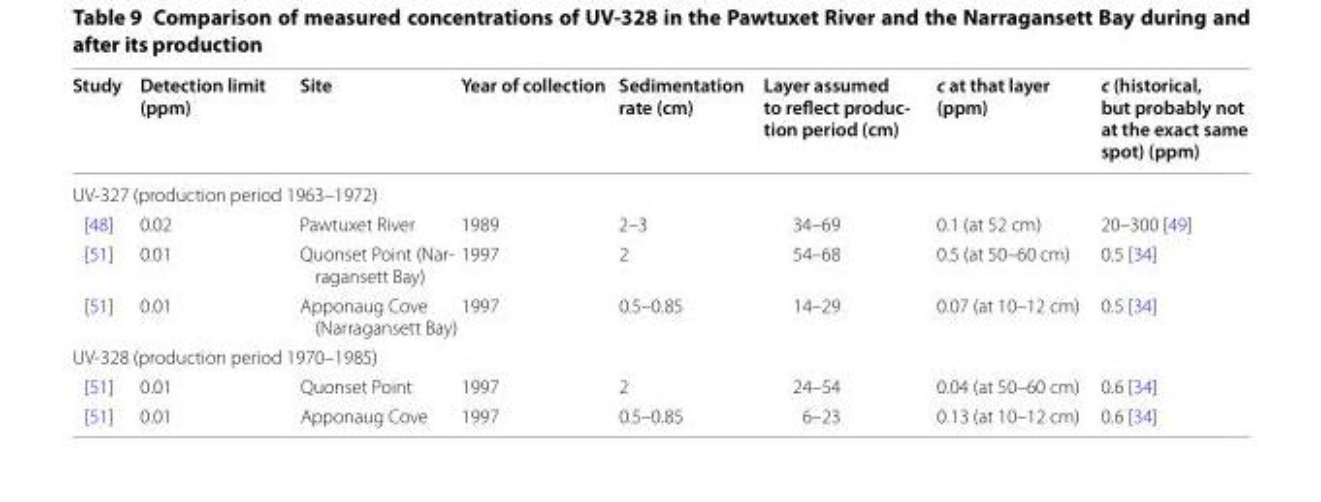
<table><thead><tr><td>Study</td><td>Detection limit (ppm)</td><td>Site</td><td>Year of collection</td><td>Sedimentation rate (cm)</td><td>Layer assumed to reflect produc- tion period (cm)</td><td>c at that layer (ppm)</td><td>c (historical, but probably not at the exact same spot) (ppm)</td></tr></thead><tbody><tr><td colspan="8">UV-327 (production period 1963–1972)</td></tr><tr><td>[48]</td><td>0.02</td><td>Pawtuxet River</td><td>1989</td><td>2–3</td><td>34–69</td><td>0.1 (at 52 cm)</td><td>20–300 [49]</td></tr><tr><td>[51]</td><td>0.01</td><td>Quonset Point (Nar- ragansett Bay)</td><td>1997</td><td>2</td><td>54–68</td><td>0.5 (at 50–60 cm)</td><td>0.5 [34]</td></tr><tr><td>[51]</td><td>0.01</td><td>Apponaug Cove (Narragansett Bay)</td><td>1997</td><td>0.5–0.85</td><td>14–29</td><td>0.07 (at 10–12 cm)</td><td>0.5 [34]</td></tr><tr><td colspan="8">UV-328 (production period 1970–1985)</td></tr><tr><td>[51]</td><td>0.01</td><td>Quonset Point</td><td>1997</td><td>2</td><td>24–54</td><td>0.04 (at 50–60 cm)</td><td>0.6 [34]</td></tr><tr><td>[51]</td><td>0.01</td><td>Apponaug Cove</td><td>1997</td><td>0.5–0.85</td><td>6–23</td><td>0.13 (at 10–12 cm)</td><td>0.6 [34]</td></tr></tbody></table>